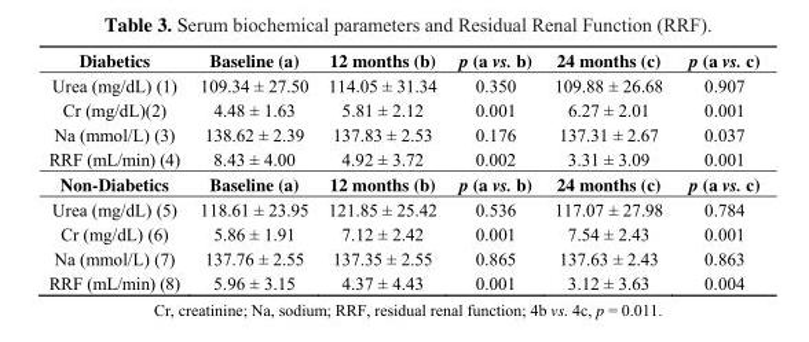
<table><tbody><tr><td>Diabetics</td><td>Baseline (a)</td><td>12 months (b)</td><td>p (a vs. b)</td><td>24 months (c)</td><td>p (a vs. c)</td></tr><tr><td>Urea (mg/dL) (1)</td><td>109.34 ± 27.50</td><td>114.05 ± 31.34</td><td>0.350</td><td>109.88 ± 26.68</td><td>0.907</td></tr><tr><td>Cr (mg/dL)(2)</td><td>4.48 ± 1.63</td><td>5.81 ± 2.12</td><td>0.001</td><td>6.27 ± 2.01</td><td>0.001</td></tr><tr><td>Na (mmol/L) (3)</td><td>138.62 ± 2.39</td><td>137.83 ± 2.53</td><td>0.176</td><td>137.31 ± 2.67</td><td>0.037</td></tr><tr><td>RRF (mL/min) (4)</td><td>8.43 ± 4.00</td><td>4.92 ± 3.72</td><td>0.002</td><td>3.31 ± 3.09</td><td>0.001</td></tr><tr><td>Non-Diabetics</td><td>Baseline (a)</td><td>12 months (b)</td><td>p (a vs. b)</td><td>24 months (c)</td><td>p (a vs. c)</td></tr><tr><td>Urea (mg/dL) (5)</td><td>118.61 ± 23.95</td><td>121.85 ± 25.42</td><td>0.536</td><td>117.07 ± 27.98</td><td>0.784</td></tr><tr><td>Cr (mg/dL) (6)</td><td>5.86 ± 1.91</td><td>7.12 ± 2.42</td><td>0.001</td><td>7.54 ± 2.43</td><td>0.001</td></tr><tr><td>Na (mmol/L) (7)</td><td>137.76 ± 2.55</td><td>137.35 ± 2.55</td><td>0.865</td><td>137.63 ± 2.43</td><td>0.863</td></tr><tr><td>RRF (mL/min) (8)</td><td>5.96 ± 3.15</td><td>4.37 ± 4.43</td><td>0.001</td><td>3.12 ± 3.63</td><td>0.004</td></tr></tbody></table>